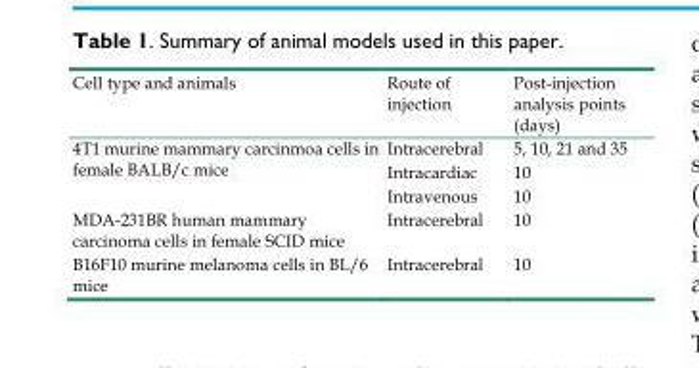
<table><thead><tr><td>Cell type and animals</td><td>Route of injection</td><td>Post-injection analysis points (days)</td></tr></thead><tbody><tr><td rowspan="3">4T1 murine mammary carcinmoa cells in female BALB/c mice</td><td>Intracerebral</td><td>5, 10, 21 and 35</td></tr><tr><td>Intracardiac</td><td>10</td></tr><tr><td>Intravenous</td><td>10</td></tr><tr><td>MDA-231BR human mammary carcinoma cells in female SCID mice</td><td>Intracerebral</td><td>10</td></tr><tr><td>B16F10 murine melanoma cells in BL/6 mice</td><td>Intracerebral</td><td>10</td></tr></tbody></table>